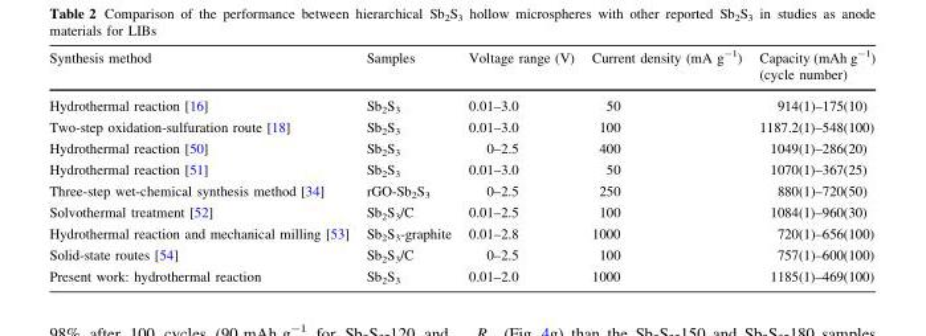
<table><thead><tr><td>Synthesis method</td><td>Samples</td><td>Voltage range (V)</td><td>Current density (mA g<sup>-1</sup>)</td><td>Capacity (mAh g<sup>-1</sup>) (cycle number)</td></tr></thead><tbody><tr><td>Hydrothermal reaction [16]</td><td>Sb<sub>2</sub>S<sub>3</sub></td><td>0.01–3.0</td><td>50</td><td>914(1)–175(10)</td></tr><tr><td>Two-step oxidation-sulfuration route [18]</td><td>Sb<sub>2</sub>S<sub>3</sub></td><td>0.01–3.0</td><td>100</td><td>1187.2(1)–548(100)</td></tr><tr><td>Hydrothermal reaction [50]</td><td>Sb<sub>2</sub>S<sub>3</sub></td><td>0–2.5</td><td>400</td><td>1049(1)–286(20)</td></tr><tr><td>Hydrothermal reaction [51]</td><td>Sb<sub>2</sub>S<sub>3</sub></td><td>0.01–3.0</td><td>50</td><td>1070(1)–367(25)</td></tr><tr><td>Three-step wet-chemical synthesis method [34]</td><td>rGO-Sb<sub>2</sub>S<sub>3</sub></td><td>0–2.5</td><td>250</td><td>880(1)–720(50)</td></tr><tr><td>Solvothermal treatment [52]</td><td>Sb<sub>2</sub>S<sub>3</sub>/C</td><td>0.01–2.5</td><td>100</td><td>1084(1)–960(30)</td></tr><tr><td>Hydrothermal reaction and mechanical milling [53]</td><td>Sb<sub>2</sub>S<sub>3</sub>-graphite</td><td>0.01–2.8</td><td>1000</td><td>720(1)–656(100)</td></tr><tr><td>Solid-state routes [54]</td><td>Sb<sub>2</sub>S<sub>3</sub>/C</td><td>0–2.5</td><td>100</td><td>757(1)–600(100)</td></tr><tr><td>Present work: hydrothermal reaction</td><td>Sb<sub>2</sub>S<sub>3</sub></td><td>0.01–2.0</td><td>1000</td><td>1185(1)–469(100)</td></tr></tbody></table>